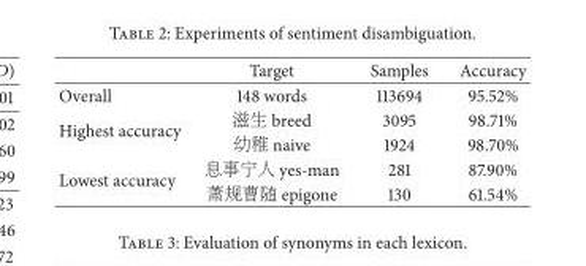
<table><thead><tr><td></td><td>Target</td><td>Samples</td><td>Accuracy</td></tr></thead><tbody><tr><td>Overall</td><td>148 words</td><td>113694</td><td>95.52%</td></tr><tr><td rowspan="2">Highest accuracy</td><td>滋生 breed</td><td>3095</td><td>98.71%</td></tr><tr><td>幼稚 naive</td><td>1924</td><td>98.70%</td></tr><tr><td rowspan="2">Lowest accuracy</td><td>息事宁人 yes-man</td><td>281</td><td>87.90%</td></tr><tr><td>萧规曹随 epigone</td><td>130</td><td>61.54%</td></tr></tbody></table>